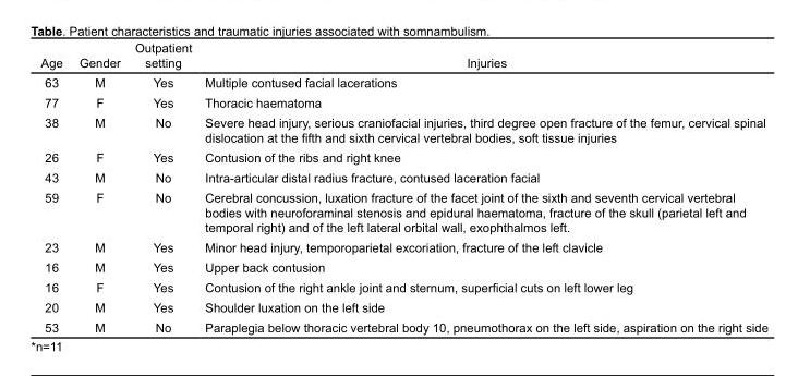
<table><thead><tr><td>Age</td><td>Gender</td><td>Outpatient setting</td><td>Injuries</td></tr></thead><tbody><tr><td>63</td><td>M</td><td>Yes</td><td>Multiple contused facial lacerations</td></tr><tr><td>77</td><td>F</td><td>Yes</td><td>Thoracic haematoma</td></tr><tr><td>38</td><td>M</td><td>No</td><td>Severe head injury, serious craniofacial injuries, third degree open fracture of the femur, cervical spinal dislocation at the fifth and sixth cervical vertebral bodies, soft tissue injuries</td></tr><tr><td>26</td><td>F</td><td>Yes</td><td>Contusion of the ribs and right knee</td></tr><tr><td>43</td><td>M</td><td>No</td><td>Intra-articular distal radius fracture, contused laceration facial</td></tr><tr><td>59</td><td>F</td><td>No</td><td>Cerebral concussion, luxation fracture of the facet joint of the sixth and seventh cervical vertebral bodies with neuroforaminal stenosis and epidural haematoma, fracture of the skull (parietal left and temporal right) and of the left lateral orbital wall, exophthalmos left.</td></tr><tr><td>23</td><td>M</td><td>Yes</td><td>Minor head injury, temporoparietal excoriation, fracture of the left clavicle</td></tr><tr><td>16</td><td>M</td><td>Yes</td><td>Upper back contusion</td></tr><tr><td>16</td><td>F</td><td>Yes</td><td>Contusion of the right ankle joint and sternum, superficial cuts on left lower leg</td></tr><tr><td>20</td><td>M</td><td>Yes</td><td>Shoulder luxation on the left side</td></tr><tr><td>53</td><td>M</td><td>No</td><td>Paraplegia below thoracic vertebral body 10, pneumothorax on the left side, aspiration on the right side</td></tr></tbody></table>